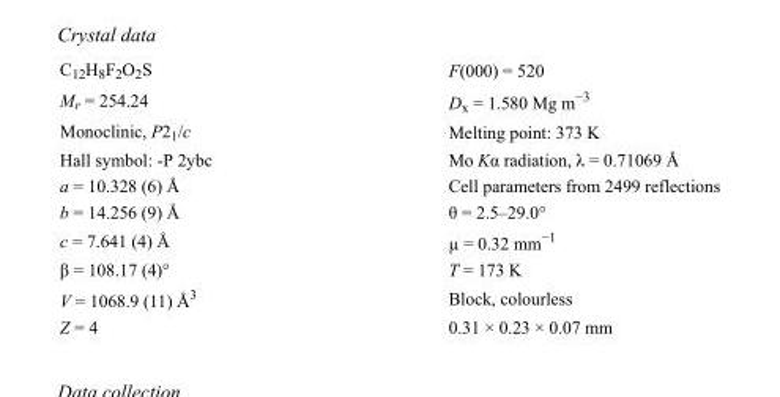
<table><tbody><tr><td>C<sub>12</sub>H<sub>8</sub>F<sub>2</sub>O<sub>2</sub>S</td><td>F(000) = 520</td></tr><tr><td>M<sub>r</sub> = 254.24</td><td>D<sub>x</sub> = 1.580 Mg m<sup>−3</sup></td></tr><tr><td>Monoclinic, P2<sub>1</sub>/c</td><td>Melting point: 373 K</td></tr><tr><td>Hall symbol: -P 2ybc</td><td>Mo Kα radiation, λ = 0.71069 Å</td></tr><tr><td>a = 10.328 (6) Å</td><td>Cell parameters from 2499 reflections</td></tr><tr><td>b = 14.256 (9) Å</td><td>θ = 2.5–29.0°</td></tr><tr><td>c = 7.641 (4) Å</td><td>µ = 0.32 mm<sup>−1</sup></td></tr><tr><td>β = 108.17 (4)°</td><td>T = 173 K</td></tr><tr><td>V = 1068.9 (11) Å<sup>3</sup></td><td>Block, colourless</td></tr><tr><td>Z = 4</td><td>0.31 × 0.23 × 0.07 mm</td></tr></tbody></table>